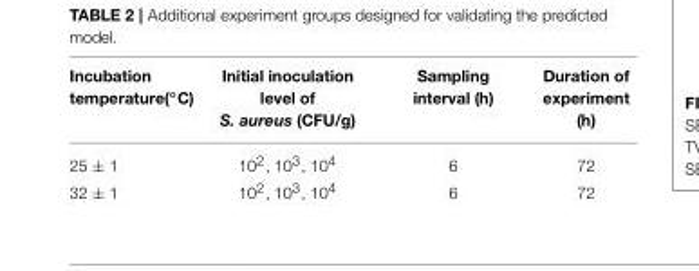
<table><thead><tr><td>Incubation temperature(◦C)</td><td>Initial inoculation level of S. aureus (CFU/g)</td><td>Sampling interval (h)</td><td>Duration of experiment (h)</td></tr></thead><tbody><tr><td>25 ± 1</td><td>10<sup>2</sup>, 10<sup>3</sup>, 10<sup>4</sup></td><td>6</td><td>72</td></tr><tr><td>32 ± 1</td><td>10<sup>2</sup>, 10<sup>3</sup>, 10<sup>4</sup></td><td>6</td><td>72</td></tr></tbody></table>